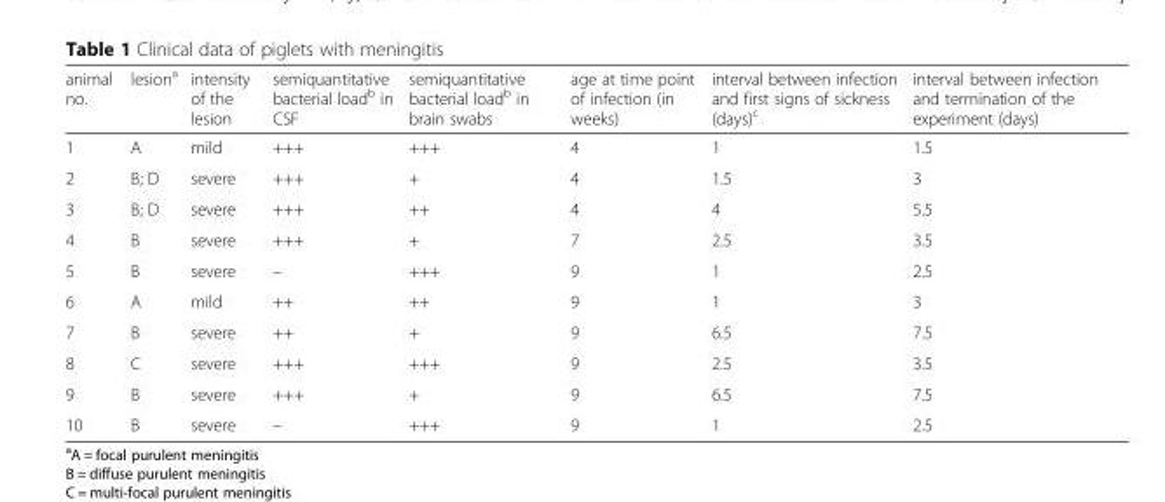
<table><thead><tr><td>animal no.</td><td>lesion<sup>a</sup></td><td>intensity of the lesion</td><td>semiquantitative bacterial load<sup>b</sup> in CSF</td><td>semiquantitative bacterial load<sup>b</sup> in brain swabs</td><td>age at time point of infection (in weeks)</td><td>interval between infection and first signs of sickness (days)<sup>c</sup></td><td>interval between infection and termination of the experiment (days)</td></tr></thead><tbody><tr><td>1</td><td>A</td><td>mild</td><td>+++</td><td>+++</td><td>4</td><td>1</td><td>1.5</td></tr><tr><td>2</td><td>B; D</td><td>severe</td><td>+++</td><td>+</td><td>4</td><td>1.5</td><td>3</td></tr><tr><td>3</td><td>B; D</td><td>severe</td><td>+++</td><td>++</td><td>4</td><td>4</td><td>5.5</td></tr><tr><td>4</td><td>B</td><td>severe</td><td>+++</td><td>+</td><td>7</td><td>2.5</td><td>3.5</td></tr><tr><td>5</td><td>B</td><td>severe</td><td>–</td><td>+++</td><td>9</td><td>1</td><td>2.5</td></tr><tr><td>6</td><td>A</td><td>mild</td><td>++</td><td>++</td><td>9</td><td>1</td><td>3</td></tr><tr><td>7</td><td>B</td><td>severe</td><td>++</td><td>+</td><td>9</td><td>6.5</td><td>7.5</td></tr><tr><td>8</td><td>C</td><td>severe</td><td>+++</td><td>+++</td><td>9</td><td>2.5</td><td>3.5</td></tr><tr><td>9</td><td>B</td><td>severe</td><td>+++</td><td>+</td><td>9</td><td>6.5</td><td>7.5</td></tr><tr><td>10</td><td>B</td><td>severe</td><td>–</td><td>+++</td><td>9</td><td>1</td><td>2.5</td></tr></tbody></table>